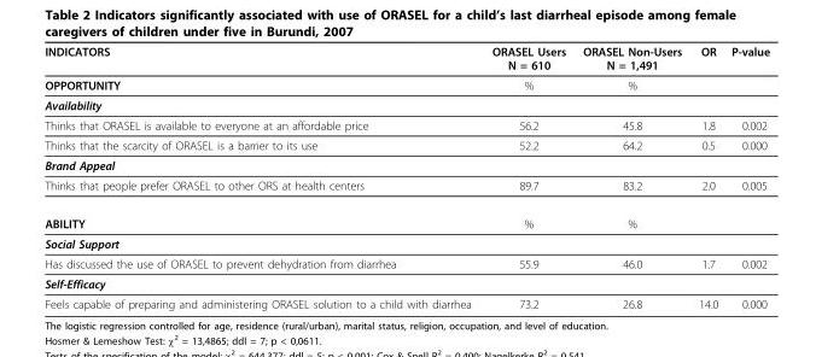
<table><thead><tr><td>INDICATORS</td><td>ORASEL Users N = 610</td><td>ORASEL Non-Users N = 1,491</td><td>OR</td><td>P-value</td></tr></thead><tbody><tr><td>OPPORTUNITY</td><td>%</td><td>%</td><td></td><td></td></tr><tr><td colspan="5">Availability</td></tr><tr><td>Thinks that ORASEL is available to everyone at an affordable price</td><td>56.2</td><td>45.8</td><td>1.8</td><td>0.002</td></tr><tr><td>Thinks that the scarcity of ORASEL is a barrier to its use</td><td>52.2</td><td>64.2</td><td>0.5</td><td>0.000</td></tr><tr><td colspan="5">Brand Appeal</td></tr><tr><td>Thinks that people prefer ORASEL to other ORS at health centers</td><td>89.7</td><td>83.2</td><td>2.0</td><td>0.005</td></tr><tr><td>ABILITY</td><td>%</td><td>%</td><td></td><td></td></tr><tr><td colspan="5">Social Support</td></tr><tr><td>Has discussed the use of ORASEL to prevent dehydration from diarrhea</td><td>55.9</td><td>46.0</td><td>1.7</td><td>0.002</td></tr><tr><td colspan="5">Self-Efficacy</td></tr><tr><td>Feels capable of preparing and administering ORASEL solution to a child with diarrhea</td><td>73.2</td><td>26.8</td><td>14.0</td><td>0.000</td></tr></tbody></table>